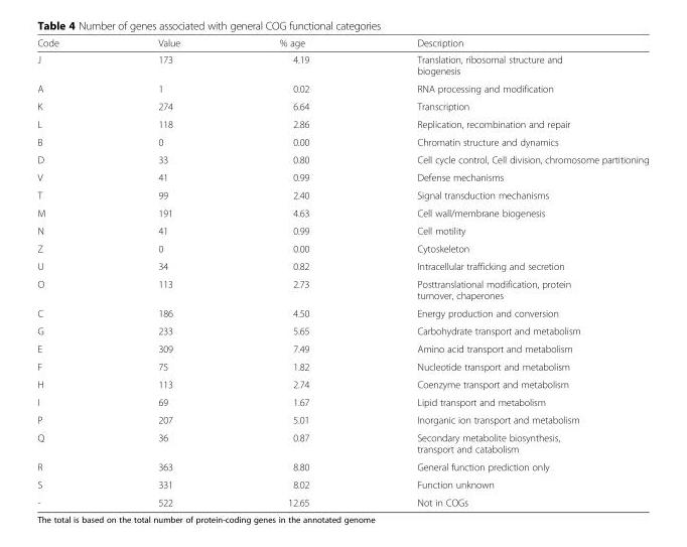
<table><thead><tr><td>Code</td><td>Value</td><td>% age</td><td>Description</td></tr></thead><tbody><tr><td>J</td><td>173</td><td>4.19</td><td>Translation, ribosomal structure and biogenesis</td></tr><tr><td>A</td><td>1</td><td>0.02</td><td>RNA processing and modification</td></tr><tr><td>K</td><td>274</td><td>6.64</td><td>Transcription</td></tr><tr><td>L</td><td>118</td><td>2.86</td><td>Replication, recombination and repair</td></tr><tr><td>B</td><td>0</td><td>0.00</td><td>Chromatin structure and dynamics</td></tr><tr><td>D</td><td>33</td><td>0.80</td><td>Cell cycle control, Cell division, chromosome partitioning</td></tr><tr><td>V</td><td>41</td><td>0.99</td><td>Defense mechanisms</td></tr><tr><td>T</td><td>99</td><td>2.40</td><td>Signal transduction mechanisms</td></tr><tr><td>M</td><td>191</td><td>4.63</td><td>Cell wall/membrane biogenesis</td></tr><tr><td>N</td><td>41</td><td>0.99</td><td>Cell motility</td></tr><tr><td>Z</td><td>0</td><td>0.00</td><td>Cytoskeleton</td></tr><tr><td>U</td><td>34</td><td>0.82</td><td>Intracellular trafficking and secretion</td></tr><tr><td>O</td><td>113</td><td>2.73</td><td>Posttranslational modification, protein turnover, chaperones</td></tr><tr><td>C</td><td>186</td><td>4.50</td><td>Energy production and conversion</td></tr><tr><td>G</td><td>233</td><td>5.65</td><td>Carbohydrate transport and metabolism</td></tr><tr><td>E</td><td>309</td><td>7.49</td><td>Amino acid transport and metabolism</td></tr><tr><td>F</td><td>75</td><td>1.82</td><td>Nucleotide transport and metabolism</td></tr><tr><td>H</td><td>113</td><td>2.74</td><td>Coenzyme transport and metabolism</td></tr><tr><td>I</td><td>69</td><td>1.67</td><td>Lipid transport and metabolism</td></tr><tr><td>P</td><td>207</td><td>5.01</td><td>Inorganic ion transport and metabolism</td></tr><tr><td>Q</td><td>36</td><td>0.87</td><td>Secondary metabolite biosynthesis, transport and catabolism</td></tr><tr><td>R</td><td>363</td><td>8.80</td><td>General function prediction only</td></tr><tr><td>S</td><td>331</td><td>8.02</td><td>Function unknown</td></tr><tr><td>-</td><td>522</td><td>12.65</td><td>Not in COGs</td></tr></tbody></table>